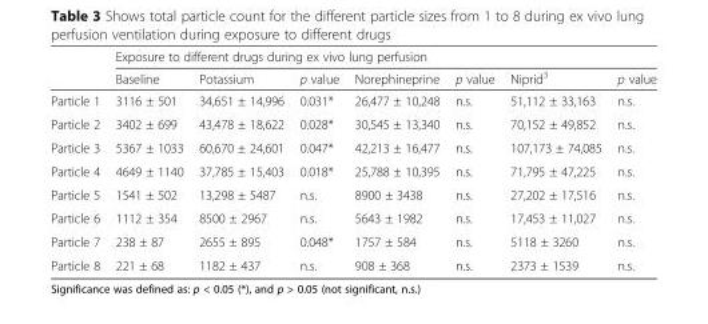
<table><thead><tr><td rowspan="2"></td><td colspan="7">Exposure to different drugs during ex vivo lung perfusion</td></tr><tr><td>Baseline</td><td>Potassium</td><td>p value</td><td>Norephineprine</td><td>p value</td><td>Niprid<sup>3</sup></td><td>p value</td></tr></thead><tbody><tr><td>Particle 1</td><td>3116 ± 501</td><td>34,651 ± 14,996</td><td>0.031*</td><td>26,477 ± 10,248</td><td>n.s.</td><td>51,112 ± 33,163</td><td>n.s.</td></tr><tr><td>Particle 2</td><td>3402 ± 699</td><td>43,478 ± 18,622</td><td>0.028*</td><td>30,545 ± 13,340</td><td>n.s.</td><td>70,152 ± 49,852</td><td>n.s.</td></tr><tr><td>Particle 3</td><td>5367 ± 1033</td><td>60,670 ± 24,601</td><td>0.047*</td><td>42,213 ± 16,477</td><td>n.s.</td><td>107,173 ± 74,085</td><td>n.s.</td></tr><tr><td>Particle 4</td><td>4649 ± 1140</td><td>37,785 ± 15,403</td><td>0.018*</td><td>25,788 ± 10,395</td><td>n.s.</td><td>71,795 ± 47,225</td><td>n.s.</td></tr><tr><td>Particle 5</td><td>1541 ± 502</td><td>13,298 ± 5487</td><td>n.s.</td><td>8900 ± 3438</td><td>n.s.</td><td>27,202 ± 17,516</td><td>n.s.</td></tr><tr><td>Particle 6</td><td>1112 ± 354</td><td>8500 ± 2967</td><td>n.s.</td><td>5643 ± 1982</td><td>n.s.</td><td>17,453 ± 11,027</td><td>n.s.</td></tr><tr><td>Particle 7</td><td>238 ± 87</td><td>2655 ± 895</td><td>0.048*</td><td>1757 ± 584</td><td>n.s.</td><td>5118 ± 3260</td><td>n.s.</td></tr><tr><td>Particle 8</td><td>221 ± 68</td><td>1182 ± 437</td><td>n.s.</td><td>908 ± 368</td><td>n.s.</td><td>2373 ± 1539</td><td>n.s.</td></tr></tbody></table>